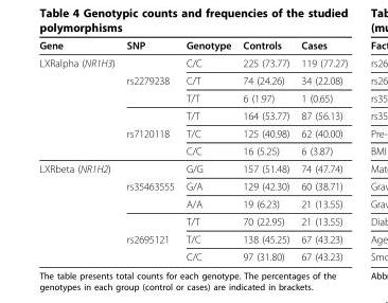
<table><thead><tr><td>Gene</td><td>SNP</td><td>Genotype</td><td>Controls</td><td>Cases</td></tr></thead><tbody><tr><td rowspan="6">LXRalpha (NR1H3)</td><td></td><td>C/C</td><td>225 (73.77)</td><td>119 (77.27)</td></tr><tr><td>rs2279238</td><td>C/T</td><td>74 (24.26)</td><td>34 (22.08)</td></tr><tr><td></td><td>T/T</td><td>6 (1.97)</td><td>1 (0.65)</td></tr><tr><td></td><td>T/T</td><td>164 (53.77)</td><td>87 (56.13)</td></tr><tr><td>rs7120118</td><td>T/C</td><td>125 (40.98)</td><td>62 (40.00)</td></tr><tr><td></td><td>C/C</td><td>16 (5.25)</td><td>6 (3.87)</td></tr><tr><td rowspan="6">LXRbeta (NR1H2)</td><td></td><td>G/G</td><td>157 (51.48)</td><td>74 (47.74)</td></tr><tr><td>rs35463555</td><td>G/A</td><td>129 (42.30)</td><td>60 (38.71)</td></tr><tr><td></td><td>A/A</td><td>19 (6.23)</td><td>21 (13.55)</td></tr><tr><td></td><td>T/T</td><td>70 (22.95)</td><td>21 (13.55)</td></tr><tr><td>rs2695121</td><td>T/C</td><td>138 (45.25)</td><td>67 (43.23)</td></tr><tr><td></td><td>C/C</td><td>97 (31.80)</td><td>67 (43.23)</td></tr></tbody></table>